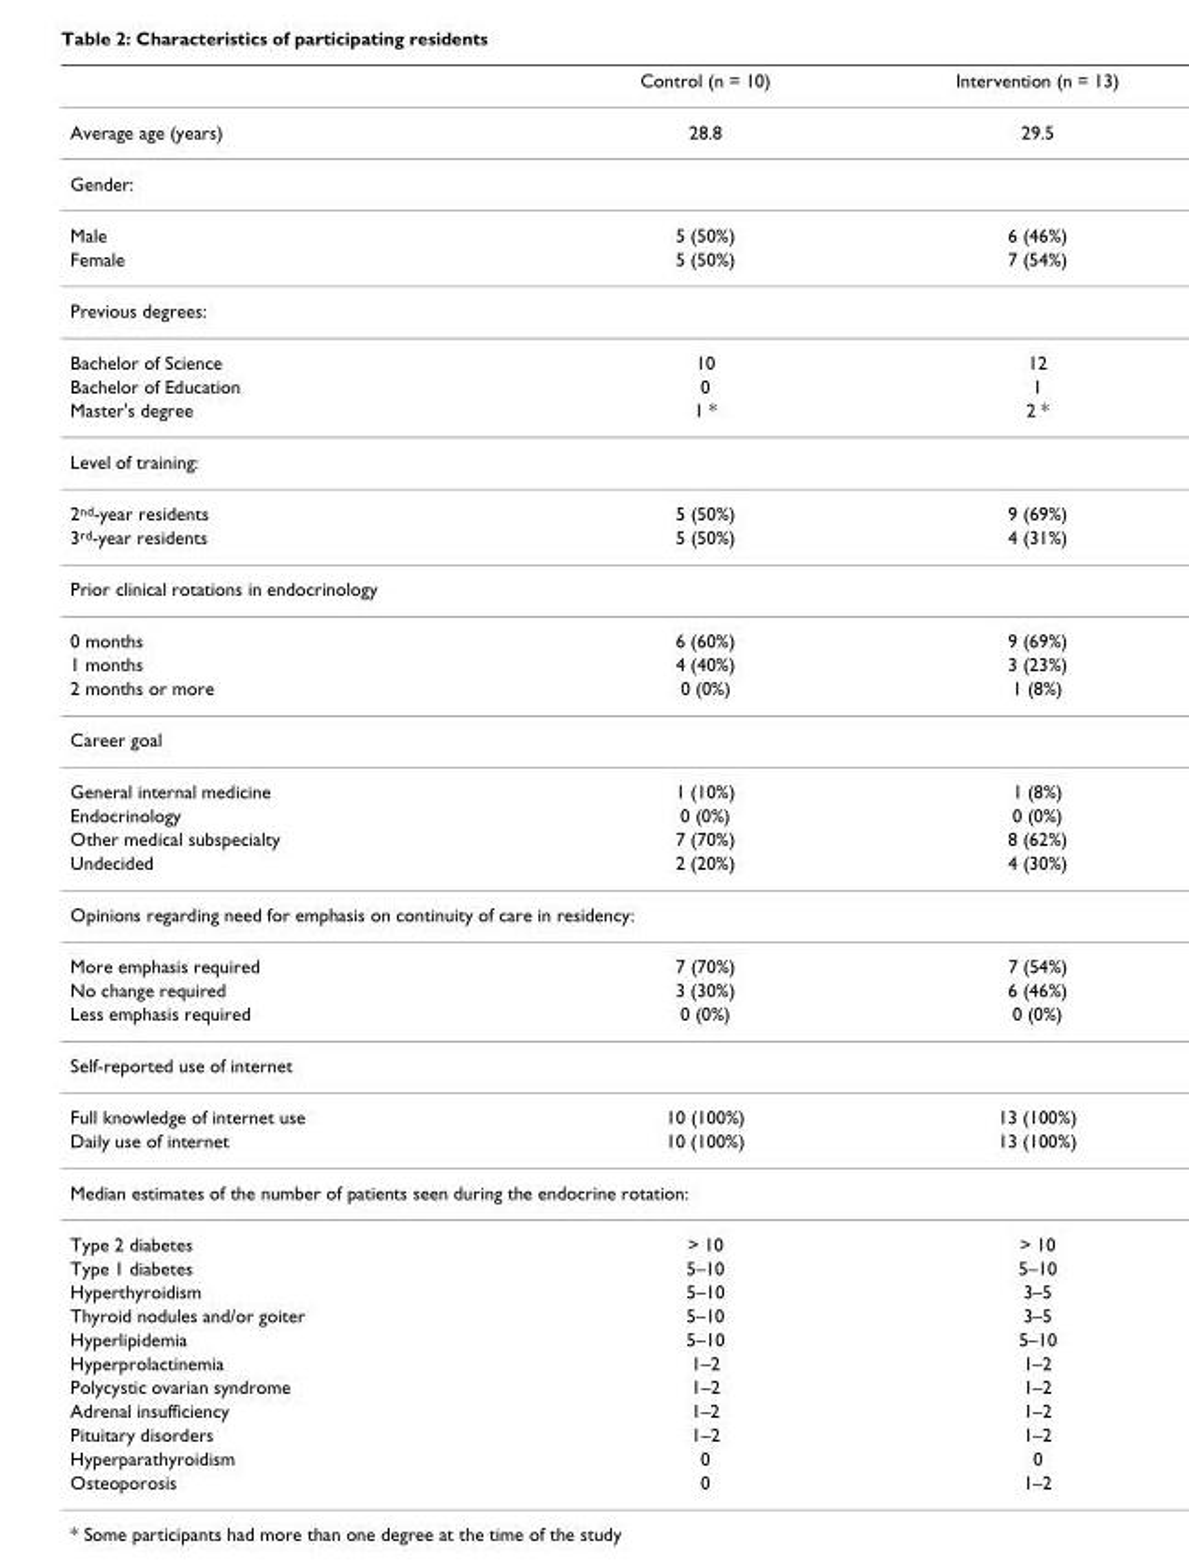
<table><thead><tr><td></td><td>Control (n = 10)</td><td>Intervention (n = 13)</td></tr></thead><tbody><tr><td>Average age (years)</td><td>28.8</td><td>29.5</td></tr><tr><td colspan="3">Gender:</td></tr><tr><td>Male</td><td>5 (50%)</td><td>6 (46%)</td></tr><tr><td>Female</td><td>5 (50%)</td><td>7 (54%)</td></tr><tr><td colspan="3">Previous degrees:</td></tr><tr><td>Bachelor of Science</td><td>10</td><td>12</td></tr><tr><td>Bachelor of Education</td><td>0</td><td>1</td></tr><tr><td>Master&#x27;s degree</td><td>1 *</td><td>2 *</td></tr><tr><td colspan="3">Level of training:</td></tr><tr><td>2<sup>nd</sup>-year residents</td><td>5 (50%)</td><td>9 (69%)</td></tr><tr><td>3<sup>rd</sup>-year residents</td><td>5 (50%)</td><td>4 (31%)</td></tr><tr><td colspan="3">Prior clinical rotations in endocrinology</td></tr><tr><td>0 months</td><td>6 (60%)</td><td>9 (69%)</td></tr><tr><td>1 months</td><td>4 (40%)</td><td>3 (23%)</td></tr><tr><td>2 months or more</td><td>0 (0%)</td><td>1 (8%)</td></tr><tr><td colspan="3">Career goal</td></tr><tr><td>General internal medicine</td><td>1 (10%)</td><td>1 (8%)</td></tr><tr><td>Endocrinology</td><td>0 (0%)</td><td>0 (0%)</td></tr><tr><td>Other medical subspecialty</td><td>7 (70%)</td><td>8 (62%)</td></tr><tr><td>Undecided</td><td>2 (20%)</td><td>4 (30%)</td></tr><tr><td colspan="3">Opinions regarding need for emphasis on continuity of care in residency:</td></tr><tr><td>More emphasis required</td><td>7 (70%)</td><td>7 (54%)</td></tr><tr><td>No change required</td><td>3 (30%)</td><td>6 (46%)</td></tr><tr><td>Less emphasis required</td><td>0 (0%)</td><td>0 (0%)</td></tr><tr><td colspan="3">Self-reported use of internet</td></tr><tr><td>Full knowledge of internet use</td><td>10 (100%)</td><td>13 (100%)</td></tr><tr><td>Daily use of internet</td><td>10 (100%)</td><td>13 (100%)</td></tr><tr><td colspan="3">Median estimates of the number of patients seen during the endocrine rotation:</td></tr><tr><td>Type 2 diabetes</td><td>&gt; 10</td><td>&gt; 10</td></tr><tr><td>Type 1 diabetes</td><td>5–10</td><td>5–10</td></tr><tr><td>Hyperthyroidism</td><td>5–10</td><td>3–5</td></tr><tr><td>Thyroid nodules and/or goiter</td><td>5–10</td><td>3–5</td></tr><tr><td>Hyperlipidemia</td><td>5–10</td><td>5–10</td></tr><tr><td>Hyperprolactinemia</td><td>1–2</td><td>1–2</td></tr><tr><td>Polycystic ovarian syndrome</td><td>1–2</td><td>1–2</td></tr><tr><td>Adrenal insufficiency</td><td>1–2</td><td>1–2</td></tr><tr><td>Pituitary disorders</td><td>1–2</td><td>1–2</td></tr><tr><td>Hyperparathyroidism</td><td>0</td><td>0</td></tr><tr><td>Osteoporosis</td><td>0</td><td>1–2</td></tr></tbody></table>